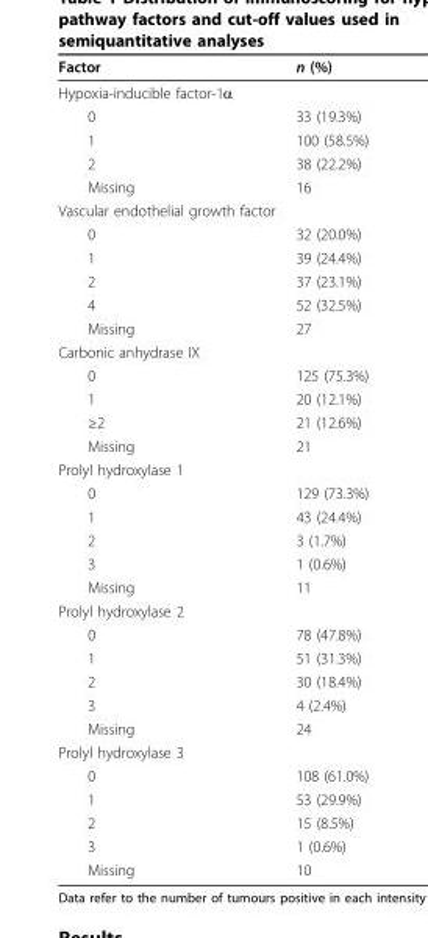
<table><thead><tr><td>Factor</td><td>n (%)</td></tr></thead><tbody><tr><td colspan="2">Hypoxia-inducible factor-1α</td></tr><tr><td>0</td><td>33 (19.3%)</td></tr><tr><td>1</td><td>100 (58.5%)</td></tr><tr><td>2</td><td>38 (22.2%)</td></tr><tr><td>Missing</td><td>16</td></tr><tr><td colspan="2">Vascular endothelial growth factor</td></tr><tr><td>0</td><td>32 (20.0%)</td></tr><tr><td>1</td><td>39 (24.4%)</td></tr><tr><td>2</td><td>37 (23.1%)</td></tr><tr><td>4</td><td>52 (32.5%)</td></tr><tr><td>Missing</td><td>27</td></tr><tr><td colspan="2">Carbonic anhydrase IX</td></tr><tr><td>0</td><td>125 (75.3%)</td></tr><tr><td>1</td><td>20 (12.1%)</td></tr><tr><td>≥2</td><td>21 (12.6%)</td></tr><tr><td>Missing</td><td>21</td></tr><tr><td colspan="2">Prolyl hydroxylase 1</td></tr><tr><td>0</td><td>129 (73.3%)</td></tr><tr><td>1</td><td>43 (24.4%)</td></tr><tr><td>2</td><td>3 (1.7%)</td></tr><tr><td>3</td><td>1 (0.6%)</td></tr><tr><td>Missing</td><td>11</td></tr><tr><td colspan="2">Prolyl hydroxylase 2</td></tr><tr><td>0</td><td>78 (47.8%)</td></tr><tr><td>1</td><td>51 (31.3%)</td></tr><tr><td>2</td><td>30 (18.4%)</td></tr><tr><td>3</td><td>4 (2.4%)</td></tr><tr><td>Missing</td><td>24</td></tr><tr><td colspan="2">Prolyl hydroxylase 3</td></tr><tr><td>0</td><td>108 (61.0%)</td></tr><tr><td>1</td><td>53 (29.9%)</td></tr><tr><td>2</td><td>15 (8.5%)</td></tr><tr><td>3</td><td>1 (0.6%)</td></tr><tr><td>Missing</td><td>10</td></tr></tbody></table>